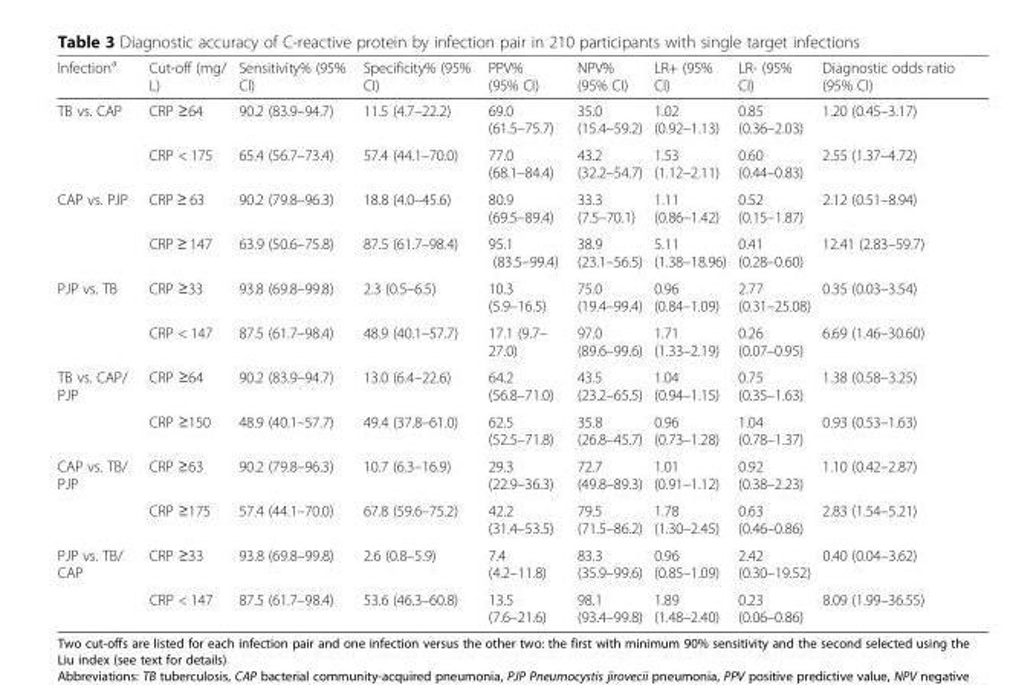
<table><thead><tr><td>Infection<sup>a</sup></td><td>Cut-off (mg/ L)</td><td>Sensitivity% (95% CI)</td><td>Specificity% (95% CI)</td><td>PPV% (95% CI)</td><td>NPV% (95% CI)</td><td>LR+ (95% CI)</td><td>LR- (95% CI)</td><td>Diagnostic odds ratio (95% CI)</td></tr></thead><tbody><tr><td rowspan="2">TB vs. CAP</td><td>CRP ≥64</td><td>90.2 (83.9–94.7)</td><td>11.5 (4.7–22.2)</td><td>69.0 (61.5–75.7)</td><td>35.0 (15.4–59.2)</td><td>1.02 (0.92–1.13)</td><td>0.85 (0.36–2.03)</td><td>1.20 (0.45–3.17)</td></tr><tr><td>CRP &lt; 175</td><td>65.4 (56.7–73.4)</td><td>57.4 (44.1–70.0)</td><td>77.0 (68.1–84.4)</td><td>43.2 (32.2–54.7)</td><td>1.53 (1.12–2.11)</td><td>0.60 (0.44–0.83)</td><td>2.55 (1.37–4.72)</td></tr><tr><td rowspan="2">CAP vs. PJP</td><td>CRP ≥ 63</td><td>90.2 (79.8–96.3)</td><td>18.8 (4.0–45.6)</td><td>80.9 (69.5–89.4)</td><td>33.3 (7.5–70.1)</td><td>1.11 (0.86–1.42)</td><td>0.52 (0.15–1.87)</td><td>2.12 (0.51–8.94)</td></tr><tr><td>CRP ≥ 147</td><td>63.9 (50.6–75.8)</td><td>87.5 (61.7–98.4)</td><td>95.1 (83.5–99.4)</td><td>38.9 (23.1–56.5)</td><td>5.11 (1.38–18.96)</td><td>0.41 (0.28–0.60)</td><td>12.41 (2.83–59.7)</td></tr><tr><td rowspan="2">PJP vs. TB</td><td>CRP ≥33</td><td>93.8 (69.8–99.8)</td><td>2.3 (0.5–6.5)</td><td>10.3 (5.9–16.5)</td><td>75.0 (19.4–99.4)</td><td>0.96 (0.84–1.09)</td><td>2.77 (0.31–25.08)</td><td>0.35 (0.03–3.54)</td></tr><tr><td>CRP &lt; 147</td><td>87.5 (61.7–98.4)</td><td>48.9 (40.1–57.7)</td><td>17.1 (9.7– 27.0)</td><td>97.0 (89.6–99.6)</td><td>1.71 (1.33–2.19)</td><td>0.26 (0.07–0.95)</td><td>6.69 (1.46–30.60)</td></tr><tr><td rowspan="2">TB vs. CAP/ PJP</td><td>CRP ≥64</td><td>90.2 (83.9–94.7)</td><td>13.0 (6.4–22.6)</td><td>64.2 (56.8–71.0)</td><td>43.5 (23.2–65.5)</td><td>1.04 (0.94–1.15)</td><td>0.75 (0.35–1.63)</td><td>1.38 (0.58–3.25)</td></tr><tr><td>CRP ≥150</td><td>48.9 (40.1–57.7)</td><td>49.4 (37.8–61.0)</td><td>62.5 (52.5–71.8)</td><td>35.8 (26.8–45.7)</td><td>0.96 (0.73–1.28)</td><td>1.04 (0.78–1.37)</td><td>0.93 (0.53–1.63)</td></tr><tr><td rowspan="2">CAP vs. TB/ PJP</td><td>CRP ≥63</td><td>90.2 (79.8–96.3)</td><td>10.7 (6.3–16.9)</td><td>29.3 (22.9–36.3)</td><td>72.7 (49.8–89.3)</td><td>1.01 (0.91–1.12)</td><td>0.92 (0.38–2.23)</td><td>1.10 (0.42–2.87)</td></tr><tr><td>CRP ≥175</td><td>57.4 (44.1–70.0)</td><td>67.8 (59.6–75.2)</td><td>42.2 (31.4–53.5)</td><td>79.5 (71.5–86.2)</td><td>1.78 (1.30–2.45)</td><td>0.63 (0.46–0.86)</td><td>2.83 (1.54–5.21)</td></tr><tr><td rowspan="2">PJP vs. TB/ CAP</td><td>CRP ≥33</td><td>93.8 (69.8–99.8)</td><td>2.6 (0.8–5.9)</td><td>7.4 (4.2–11.8)</td><td>83.3 (35.9–99.6)</td><td>0.96 (0.85–1.09)</td><td>2.42 (0.30–19.52)</td><td>0.40 (0.04–3.62)</td></tr><tr><td>CRP &lt; 147</td><td>87.5 (61.7–98.4)</td><td>53.6 (46.3–60.8)</td><td>13.5 (7.6–21.6)</td><td>98.1 (93.4–99.8)</td><td>1.89 (1.48–2.40)</td><td>0.23 (0.06–0.86)</td><td>8.09 (1.99–36.55)</td></tr></tbody></table>